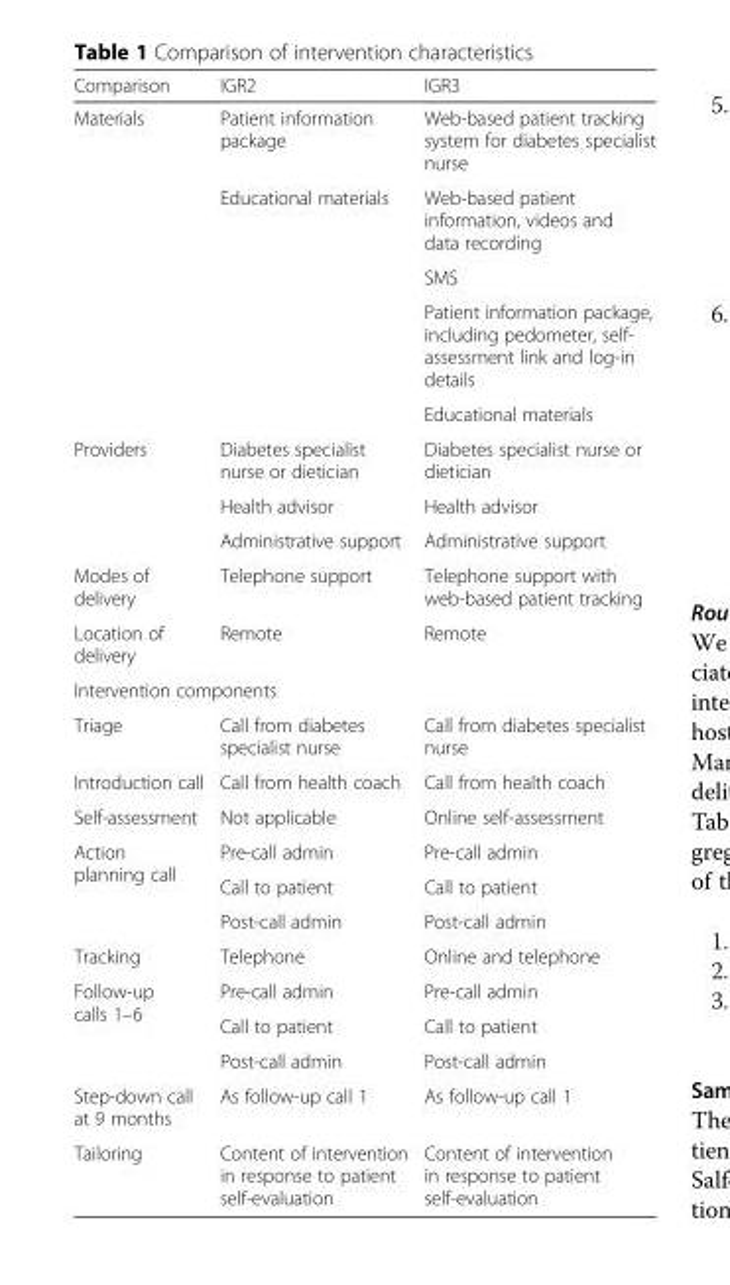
<table><thead><tr><td>Comparison</td><td>IGR2</td><td>IGR3</td></tr></thead><tbody><tr><td rowspan="5">Materials</td><td>Patient information package</td><td>Web-based patient tracking system for diabetes specialist nurse</td></tr><tr><td rowspan="4">Educational materials</td><td>Web-based patient information, videos and data recording</td></tr><tr><td>SMS</td></tr><tr><td>Patient information package, including pedometer, self- assessment link and log-in details</td></tr><tr><td>Educational materials</td></tr><tr><td rowspan="3">Providers</td><td>Diabetes specialist nurse or dietician</td><td>Diabetes specialist nurse or dietician</td></tr><tr><td>Health advisor</td><td>Health advisor</td></tr><tr><td>Administrative support</td><td>Administrative support</td></tr><tr><td>Modes of delivery</td><td>Telephone support</td><td>Telephone support with web-based patient tracking</td></tr><tr><td>Location of delivery</td><td>Remote</td><td>Remote</td></tr><tr><td colspan="3">Intervention components</td></tr><tr><td>Triage</td><td>Call from diabetes specialist nurse</td><td>Call from diabetes specialist nurse</td></tr><tr><td>Introduction call</td><td>Call from health coach</td><td>Call from health coach</td></tr><tr><td>Self-assessment</td><td>Not applicable</td><td>Online self-assessment</td></tr><tr><td rowspan="3">Action planning call</td><td>Pre-call admin</td><td>Pre-call admin</td></tr><tr><td>Call to patient</td><td>Call to patient</td></tr><tr><td>Post-call admin</td><td>Post-call admin</td></tr><tr><td>Tracking</td><td>Telephone</td><td>Online and telephone</td></tr><tr><td rowspan="3">Follow-up calls 1–6</td><td>Pre-call admin</td><td>Pre-call admin</td></tr><tr><td>Call to patient</td><td>Call to patient</td></tr><tr><td>Post-call admin</td><td>Post-call admin</td></tr><tr><td>Step-down call at 9 months</td><td>As follow-up call 1</td><td>As follow-up call 1</td></tr><tr><td>Tailoring</td><td>Content of intervention in response to patient self-evaluation</td><td>Content of intervention in response to patient self-evaluation</td></tr></tbody></table>